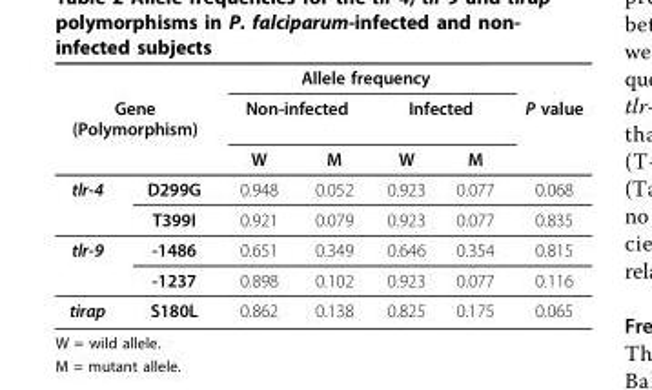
<table><thead><tr><td></td><td></td><td colspan="4">Allele frequency</td><td rowspan="3">P value</td></tr><tr><td colspan="2">Gene (Polymorphism)</td><td colspan="2">Non-infected</td><td colspan="2">Infected</td></tr><tr><td></td><td></td><td>W</td><td>M</td><td>W</td><td>M</td></tr></thead><tbody><tr><td rowspan="2">tlr-4</td><td>D299G</td><td>0.948</td><td>0.052</td><td>0.923</td><td>0.077</td><td>0.068</td></tr><tr><td>T399I</td><td>0.921</td><td>0.079</td><td>0.923</td><td>0.077</td><td>0.835</td></tr><tr><td rowspan="2">tlr-9</td><td>-1486</td><td>0.651</td><td>0.349</td><td>0.646</td><td>0.354</td><td>0.815</td></tr><tr><td>-1237</td><td>0.898</td><td>0.102</td><td>0.923</td><td>0.077</td><td>0.116</td></tr><tr><td>tirap</td><td>S180L</td><td>0.862</td><td>0.138</td><td>0.825</td><td>0.175</td><td>0.065</td></tr></tbody></table>